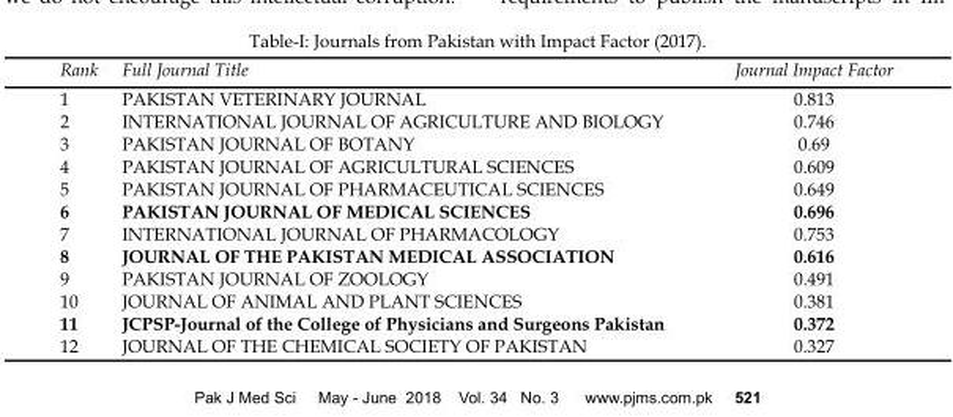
<table><thead><tr><td>Rank</td><td>Full Journal Title</td><td>Journal Impact Factor</td></tr></thead><tbody><tr><td>1</td><td>PAKISTAN VETERINARY JOURNAL</td><td>0.813</td></tr><tr><td>2</td><td>INTERNATIONAL JOURNAL OF AGRICULTURE AND BIOLOGY</td><td>0.746</td></tr><tr><td>3</td><td>PAKISTAN JOURNAL OF BOTANY</td><td>0.69</td></tr><tr><td>4</td><td>PAKISTAN JOURNAL OF AGRICULTURAL SCIENCES</td><td>0.609</td></tr><tr><td>5</td><td>PAKISTAN JOURNAL OF PHARMACEUTICAL SCIENCES</td><td>0.649</td></tr><tr><td>6</td><td>PAKISTAN JOURNAL OF MEDICAL SCIENCES</td><td>0.696</td></tr><tr><td>7</td><td>INTERNATIONAL JOURNAL OF PHARMACOLOGY</td><td>0.753</td></tr><tr><td>8</td><td>JOURNAL OF THE PAKISTAN MEDICAL ASSOCIATION</td><td>0.616</td></tr><tr><td>9</td><td>PAKISTAN JOURNAL OF ZOOLOGY</td><td>0.491</td></tr><tr><td>10</td><td>JOURNAL OF ANIMAL AND PLANT SCIENCES</td><td>0.381</td></tr><tr><td>11</td><td>JCPSP-Journal of the College of Physicians and Surgeons Pakistan</td><td>0.372</td></tr><tr><td>12</td><td>JOURNAL OF THE CHEMICAL SOCIETY OF PAKISTAN</td><td>0.327</td></tr></tbody></table>